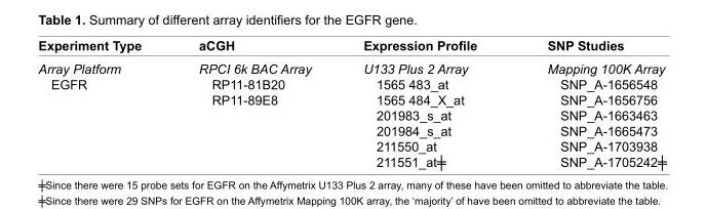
<table><thead><tr><td>Experiment Type</td><td>aCGH</td><td>Expression Profi le</td><td>SNP Studies</td></tr></thead><tbody><tr><td>Array Platform</td><td>RPCI 6k BAC Array</td><td>U133 Plus 2 Array</td><td>Mapping 100K Array</td></tr><tr><td rowspan="6">EGFR</td><td>RP11-81B20</td><td>1565 483_at</td><td>SNP_A-1656548</td></tr><tr><td>RP11-89E8</td><td>1565 484_X_at</td><td>SNP_A-1656756</td></tr><tr><td></td><td>201983_s_at</td><td>SNP_A-1663463</td></tr><tr><td></td><td>201984_s_at</td><td>SNP_A-1665473</td></tr><tr><td></td><td>211550_at</td><td>SNP_A-1703938</td></tr><tr><td></td><td>211551_at╪</td><td>SNP_A-1705242╪</td></tr></tbody></table>